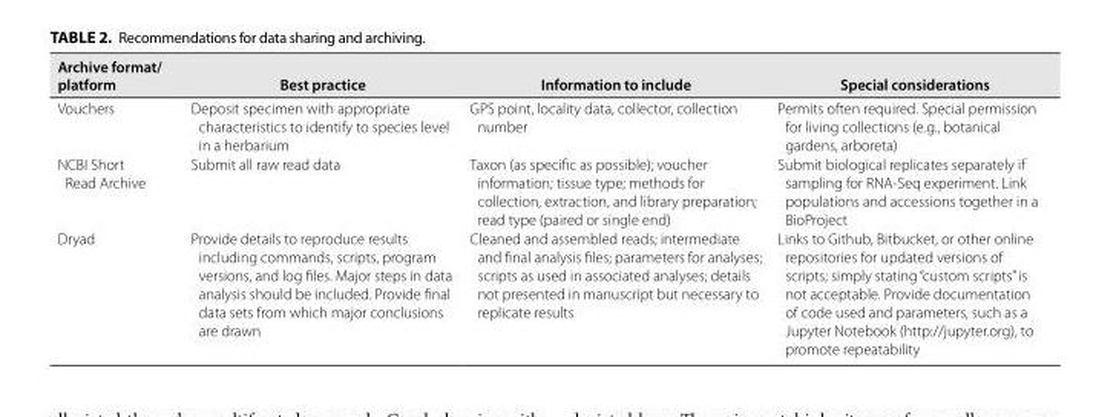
<table><thead><tr><td>Archive format/ platform</td><td>Best practice</td><td>Information to include</td><td>Special considerations</td></tr></thead><tbody><tr><td>Vouchers</td><td>Deposit specimen with appropriate characteristics to identify to species level in a herbarium</td><td>GPS point, locality data, collector, collection number</td><td>Permits often required. Special permission for living collections (e.g., botanical gardens, arboreta)</td></tr><tr><td>NCBI Short Read Archive</td><td>Submit all raw read data</td><td>Taxon (as specific as possible); voucher information; tissue type; methods for collection, extraction, and library preparation; read type (paired or single end)</td><td>Submit biological replicates separately if sampling for RNA- Seq experiment. Link populations and accessions together in a BioProject</td></tr><tr><td>Dryad</td><td>Provide details to reproduce results including commands, scripts, program versions, and log files. Major steps in data analysis should be included. Provide final data sets from which major conclusions are drawn</td><td>Cleaned and assembled reads; intermediate and final analysis files; parameters for analyses; scripts as used in associated analyses; details not presented in manuscript but necessary to replicate results</td><td>Links to Github, Bitbucket, or other online repositories for updated versions of scripts; simply stating “custom scripts” is not acceptable. Provide documentation of code used and parameters, such as a Jupyter Notebook (http://jupyter.org), to promote repeatability</td></tr></tbody></table>